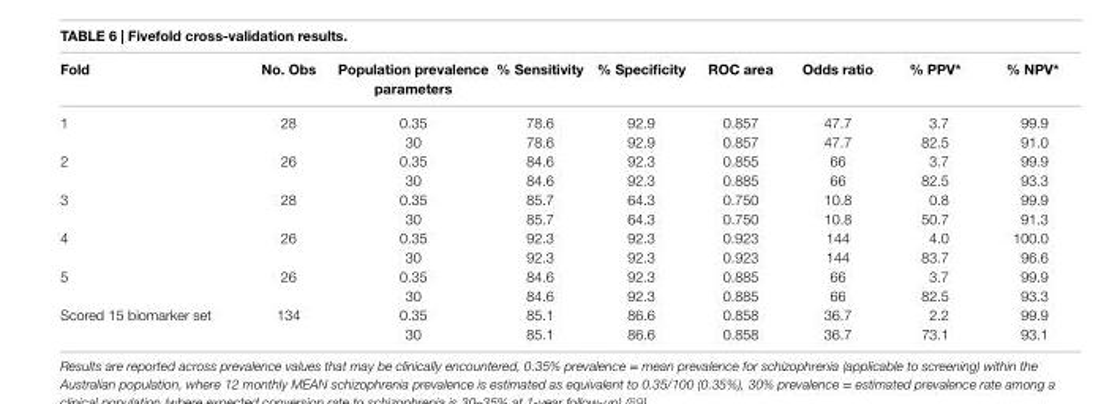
<table><thead><tr><td>Fold</td><td>no. Obs</td><td>Population prevalence parameters</td><td>% sensitivity</td><td>% specificity</td><td>rOc area</td><td>Odds ratio</td><td>% PPV*</td><td>% nPV*</td></tr></thead><tbody><tr><td rowspan="2">1</td><td>28</td><td>0.35</td><td>78.6</td><td>92.9</td><td>0.857</td><td>47.7</td><td>3.7</td><td>99.9</td></tr><tr><td></td><td>30</td><td>78.6</td><td>92.9</td><td>0.857</td><td>47.7</td><td>82.5</td><td>91.0</td></tr><tr><td rowspan="2">2</td><td>26</td><td>0.35</td><td>84.6</td><td>92.3</td><td>0.855</td><td>66</td><td>3.7</td><td>99.9</td></tr><tr><td></td><td>30</td><td>84.6</td><td>92.3</td><td>0.885</td><td>66</td><td>82.5</td><td>93.3</td></tr><tr><td rowspan="2">3</td><td>28</td><td>0.35</td><td>85.7</td><td>64.3</td><td>0.750</td><td>10.8</td><td>0.8</td><td>99.9</td></tr><tr><td></td><td>30</td><td>85.7</td><td>64.3</td><td>0.750</td><td>10.8</td><td>50.7</td><td>91.3</td></tr><tr><td rowspan="2">4</td><td>26</td><td>0.35</td><td>92.3</td><td>92.3</td><td>0.923</td><td>144</td><td>4.0</td><td>100.0</td></tr><tr><td></td><td>30</td><td>92.3</td><td>92.3</td><td>0.923</td><td>144</td><td>83.7</td><td>96.6</td></tr><tr><td rowspan="2">5</td><td>26</td><td>0.35</td><td>84.6</td><td>92.3</td><td>0.885</td><td>66</td><td>3.7</td><td>99.9</td></tr><tr><td></td><td>30</td><td>84.6</td><td>92.3</td><td>0.885</td><td>66</td><td>82.5</td><td>93.3</td></tr><tr><td rowspan="2">Scored 15 biomarker set</td><td>134</td><td>0.35</td><td>85.1</td><td>86.6</td><td>0.858</td><td>36.7</td><td>2.2</td><td>99.9</td></tr><tr><td></td><td>30</td><td>85.1</td><td>86.6</td><td>0.858</td><td>36.7</td><td>73.1</td><td>93.1</td></tr></tbody></table>